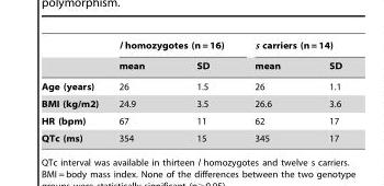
<table><thead><tr><td rowspan="2"></td><td colspan="2">l homozygotes (n = 16)</td><td colspan="2">s carriers (n = 14)</td></tr><tr><td>mean</td><td>SD</td><td>mean</td><td>SD</td></tr></thead><tbody><tr><td>Age (years)</td><td>26</td><td>1.5</td><td>26</td><td>1.1</td></tr><tr><td>BMI (kg/m2)</td><td>24.9</td><td>3.5</td><td>26.6</td><td>3.6</td></tr><tr><td>HR (bpm)</td><td>67</td><td>11</td><td>62</td><td>17</td></tr><tr><td>QTc (ms)</td><td>354</td><td>15</td><td>345</td><td>17</td></tr></tbody></table>